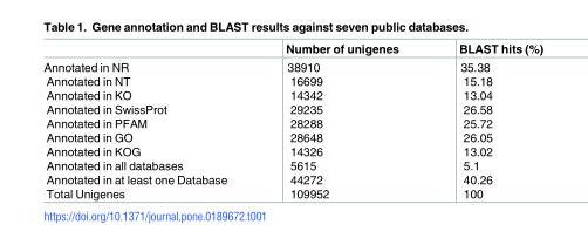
<table><thead><tr><td></td><td>Number of unigenes</td><td>BLAST hits (%)</td></tr></thead><tbody><tr><td>Annotated in NR Annotated in NT Annotated in KO Annotated in SwissProt Annotated in PFAM Annotated in GO Annotated in KOG Annotated in all databases Annotated in at least one Database Total Unigenes</td><td>38910 16699 14342 29235 28288 28648 14326 5615 44272 109952</td><td>35.38 15.18 13.04 26.58 25.72 26.05 13.02 5.1 40.26 100</td></tr></tbody></table>